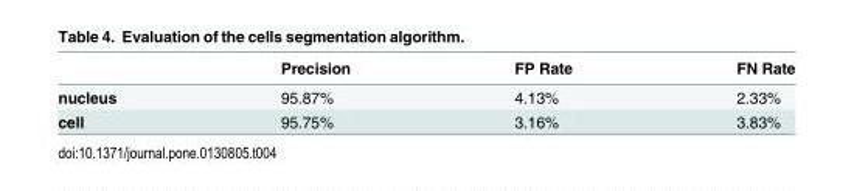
<table><thead><tr><td></td><td>Precision</td><td>FP Rate</td><td>FN Rate</td></tr></thead><tbody><tr><td>nucleus</td><td>95.87%</td><td>4.13%</td><td>2.33%</td></tr><tr><td>cell</td><td>95.75%</td><td>3.16%</td><td>3.83%</td></tr></tbody></table>